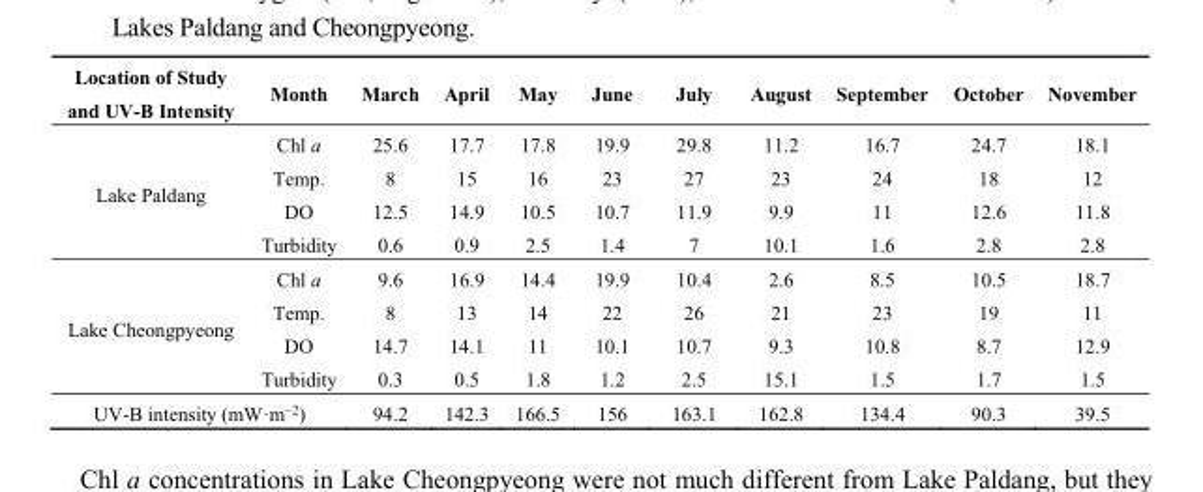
<table><thead><tr><td>Location of Study and UV-B Intensity</td><td>Month</td><td>March</td><td>April</td><td>May</td><td>June</td><td>July</td><td>August</td><td>September</td><td>October</td><td>November</td></tr></thead><tbody><tr><td rowspan="4">Lake Paldang</td><td>Chl a</td><td>25.6</td><td>17.7</td><td>17.8</td><td>19.9</td><td>29.8</td><td>11.2</td><td>16.7</td><td>24.7</td><td>18.1</td></tr><tr><td>Temp.</td><td>8</td><td>15</td><td>16</td><td>23</td><td>27</td><td>23</td><td>24</td><td>18</td><td>12</td></tr><tr><td>DO</td><td>12.5</td><td>14.9</td><td>10.5</td><td>10.7</td><td>11.9</td><td>9.9</td><td>11</td><td>12.6</td><td>11.8</td></tr><tr><td>Turbidity</td><td>0.6</td><td>0.9</td><td>2.5</td><td>1.4</td><td>7</td><td>10.1</td><td>1.6</td><td>2.8</td><td>2.8</td></tr><tr><td rowspan="4">Lake Cheongpyeong</td><td>Chl a</td><td>9.6</td><td>16.9</td><td>14.4</td><td>19.9</td><td>10.4</td><td>2.6</td><td>8.5</td><td>10.5</td><td>18.7</td></tr><tr><td>Temp.</td><td>8</td><td>13</td><td>14</td><td>22</td><td>26</td><td>21</td><td>23</td><td>19</td><td>11</td></tr><tr><td>DO</td><td>14.7</td><td>14.1</td><td>11</td><td>10.1</td><td>10.7</td><td>9.3</td><td>10.8</td><td>8.7</td><td>12.9</td></tr><tr><td>Turbidity</td><td>0.3</td><td>0.5</td><td>1.8</td><td>1.2</td><td>2.5</td><td>15.1</td><td>1.5</td><td>1.7</td><td>1.5</td></tr><tr><td colspan="2">UV-B intensity (mW·m<sup>−2</sup>)</td><td>94.2</td><td>142.3</td><td>166.5</td><td>156</td><td>163.1</td><td>162.8</td><td>134.4</td><td>90.3</td><td>39.5</td></tr></tbody></table>